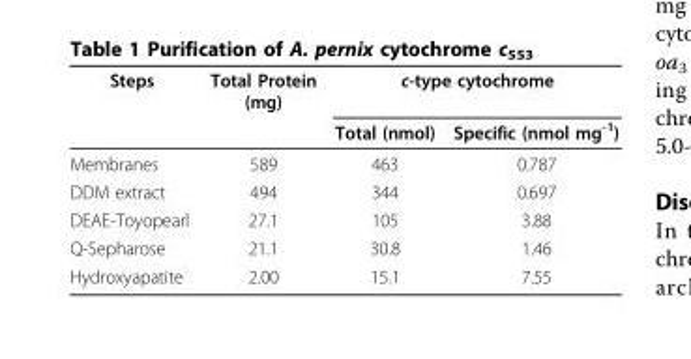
<table><thead><tr><td rowspan="2">Steps</td><td rowspan="2">Total Protein (mg)</td><td colspan="2">c-type cytochrome</td></tr><tr><td>Total (nmol)</td><td>Specific (nmol mg<sup>-1</sup>)</td></tr></thead><tbody><tr><td>Membranes</td><td>589</td><td>463</td><td>0.787</td></tr><tr><td>DDM extract</td><td>494</td><td>344</td><td>0.697</td></tr><tr><td>DEAE-Toyopearl</td><td>27.1</td><td>105</td><td>3.88</td></tr><tr><td>Q-Sepharose</td><td>21.1</td><td>30.8</td><td>1.46</td></tr><tr><td>Hydroxyapatite</td><td>2.00</td><td>15.1</td><td>7.55</td></tr></tbody></table>